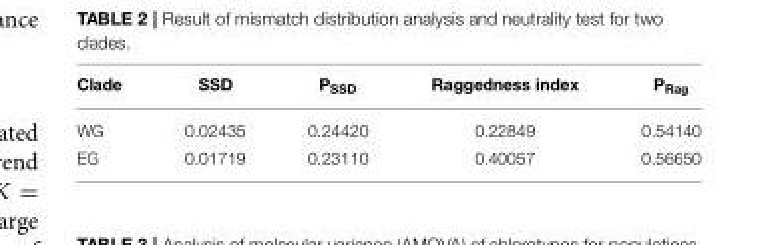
<table><thead><tr><td>Clade</td><td>SSD</td><td>P<sub>SSD</sub></td><td>Raggedness index</td><td>P<sub>Rag</sub></td></tr></thead><tbody><tr><td>WG</td><td>0.02435</td><td>0.24420</td><td>0.22849</td><td>0.54140</td></tr><tr><td>EG</td><td>0.01719</td><td>0.23110</td><td>0.40057</td><td>0.56650</td></tr></tbody></table>